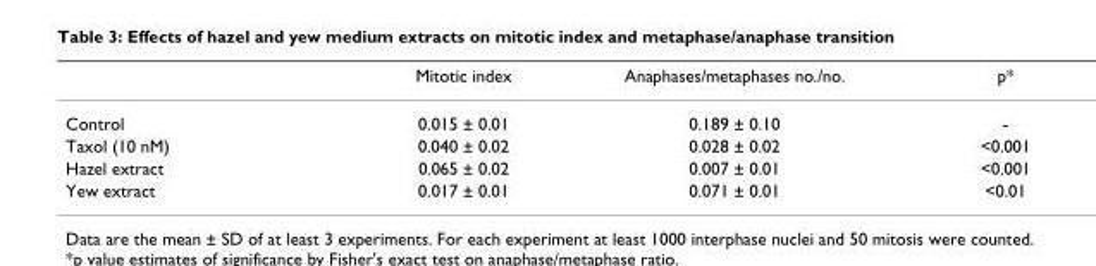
<table><thead><tr><td></td><td>Mitotic index</td><td>Anaphases/metaphases no./no.</td><td>p*</td></tr></thead><tbody><tr><td>Control</td><td>0.015 ± 0.01</td><td>0.189 ± 0.10</td><td>-</td></tr><tr><td>Taxol (10 nM)</td><td>0.040 ± 0.02</td><td>0.028 ± 0.02</td><td>&lt;0.001</td></tr><tr><td>Hazel extract</td><td>0.065 ± 0.02</td><td>0.007 ± 0.01</td><td>&lt;0.001</td></tr><tr><td>Yew extract</td><td>0.017 ± 0.01</td><td>0.071 ± 0.01</td><td>&lt;0.01</td></tr></tbody></table>